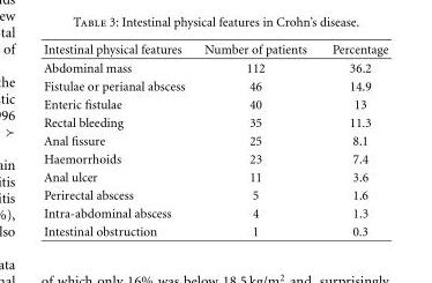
<table><thead><tr><td>Intestinal physical features</td><td>Number of patients</td><td>Percentage</td></tr></thead><tbody><tr><td>Abdominal mass</td><td>112</td><td>36.2</td></tr><tr><td>Fistulae or perianal abscess</td><td>46</td><td>14.9</td></tr><tr><td>Enteric fistulae</td><td>40</td><td>13</td></tr><tr><td>Rectal bleeding</td><td>35</td><td>11.3</td></tr><tr><td>Anal fissure</td><td>25</td><td>8.1</td></tr><tr><td>Haemorrhoids</td><td>23</td><td>7.4</td></tr><tr><td>Anal ulcer</td><td>11</td><td>3.6</td></tr><tr><td>Perirectal abscess</td><td>5</td><td>1.6</td></tr><tr><td>Intra-abdominal abscess</td><td>4</td><td>1.3</td></tr><tr><td>Intestinal obstruction</td><td>1</td><td>0.3</td></tr></tbody></table>